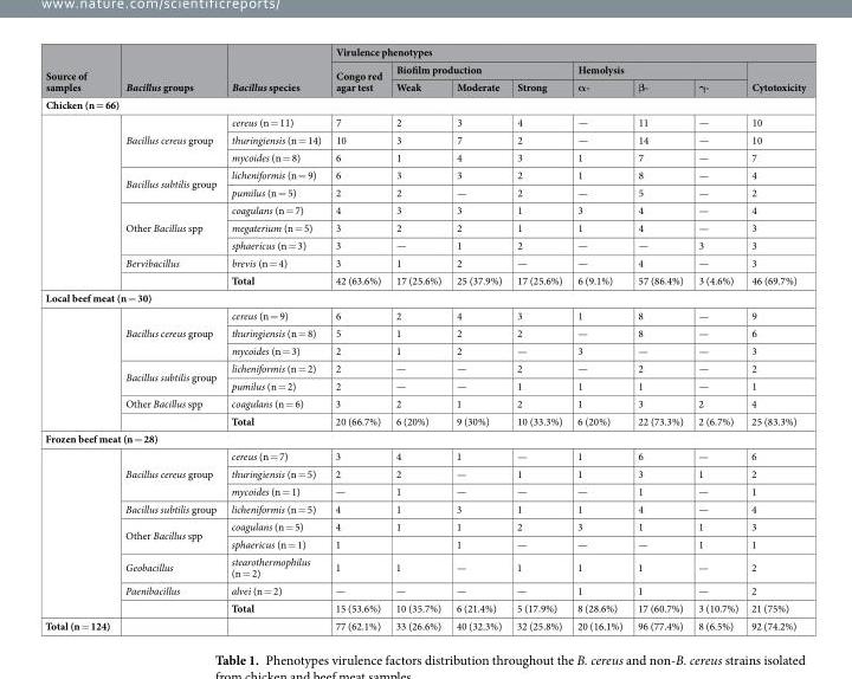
<table><thead><tr><td rowspan="3">Source of samples</td><td rowspan="3">Bacillus groups</td><td rowspan="3">Bacillus species</td><td colspan="8">Virulence phenotypes</td></tr><tr><td rowspan="2">Congo red agar test</td><td colspan="3">Biofilm production</td><td colspan="3">Hemolysis</td><td rowspan="2">Cytotoxicity</td></tr><tr><td>Weak</td><td>Moderate</td><td>Strong</td><td>α-</td><td>β-</td><td>γ-</td></tr></thead><tbody><tr><td colspan="11">Chicken (n = 66)</td></tr><tr><td rowspan="10"></td><td rowspan="3">Bacillus cereus group</td><td>cereus (n = 11)</td><td>7</td><td>2</td><td>3</td><td>4</td><td>—</td><td>11</td><td>—</td><td>10</td></tr><tr><td>thuringiensis (n = 14)</td><td>10</td><td>3</td><td>7</td><td>2</td><td>—</td><td>14</td><td>—</td><td>10</td></tr><tr><td>mycoides (n = 8)</td><td>6</td><td>1</td><td>4</td><td>3</td><td>1</td><td>7</td><td>—</td><td>7</td></tr><tr><td rowspan="2">Bacillus subtilis group</td><td>licheniformis (n = 9)</td><td>6</td><td>3</td><td>3</td><td>2</td><td>1</td><td>8</td><td>—</td><td>4</td></tr><tr><td>pumilus (n = 5)</td><td>2</td><td>2</td><td>—</td><td>2</td><td>—</td><td>5</td><td>—</td><td>2</td></tr><tr><td rowspan="3">Other Bacillus spp</td><td>coagulans (n = 7)</td><td>4</td><td>3</td><td>3</td><td>1</td><td>3</td><td>4</td><td>—</td><td>4</td></tr><tr><td>megaterium (n = 5)</td><td>3</td><td>2</td><td>2</td><td>1</td><td>1</td><td>4</td><td>—</td><td>3</td></tr><tr><td>sphaericus (n = 3)</td><td>3</td><td>—</td><td>1</td><td>2</td><td>—</td><td>—</td><td>3</td><td>3</td></tr><tr><td>Bervibacillus</td><td>brevis (n = 4)</td><td>3</td><td>1</td><td>2</td><td>—</td><td>—</td><td>4</td><td>—</td><td>3</td></tr><tr><td></td><td>Total</td><td>42 (63.6%)</td><td>17 (25.6%)</td><td>25 (37.9%)</td><td>17 (25.6%)</td><td>6 (9.1%)</td><td>57 (86.4%)</td><td>3 (4.6%)</td><td>46 (69.7%)</td></tr><tr><td colspan="11">Local beef meat (n = 30)</td></tr><tr><td rowspan="7"></td><td rowspan="3">Bacillus cereus group</td><td>cereus (n = 9)</td><td>6</td><td>2</td><td>4</td><td>3</td><td>1</td><td>8</td><td>—</td><td>9</td></tr><tr><td>thuringiensis (n = 8)</td><td>5</td><td>1</td><td>2</td><td>2</td><td>—</td><td>8</td><td>—</td><td>6</td></tr><tr><td>mycoides (n = 3)</td><td>2</td><td>1</td><td>2</td><td>—</td><td>3</td><td>—</td><td>—</td><td>3</td></tr><tr><td rowspan="2">Bacillus subtilis group</td><td>licheniformis (n = 2)</td><td>2</td><td>—</td><td>—</td><td>2</td><td>—</td><td>2</td><td>—</td><td>2</td></tr><tr><td>pumilus (n = 2)</td><td>2</td><td>—</td><td>—</td><td>1</td><td>1</td><td>1</td><td>—</td><td>1</td></tr><tr><td>Other Bacillus spp</td><td>coagulans (n = 6)</td><td>3</td><td>2</td><td>1</td><td>2</td><td>1</td><td>3</td><td>2</td><td>4</td></tr><tr><td></td><td>Total</td><td>20 (66.7%)</td><td>6 (20%)</td><td>9 (30%)</td><td>10 (33.3%)</td><td>6 (20%)</td><td>22 (73.3%)</td><td>2 (6.7%)</td><td>25 (83.3%)</td></tr><tr><td colspan="11">Frozen beef meat (n = 28)</td></tr><tr><td rowspan="9"></td><td rowspan="3">Bacillus cereus group</td><td>cereus (n = 7)</td><td>3</td><td>4</td><td>1</td><td>—</td><td>1</td><td>6</td><td>—</td><td>6</td></tr><tr><td>thuringiensis (n = 5)</td><td>2</td><td>2</td><td>—</td><td>1</td><td>1</td><td>3</td><td>1</td><td>2</td></tr><tr><td>mycoides (n = 1)</td><td>—</td><td>1</td><td>—</td><td>—</td><td>—</td><td>1</td><td>—</td><td>1</td></tr><tr><td>Bacillus subtilis group</td><td>licheniformis (n = 5)</td><td>4</td><td>1</td><td>3</td><td>1</td><td>1</td><td>4</td><td>—</td><td>4</td></tr><tr><td rowspan="2">Other Bacillus spp</td><td>coagulans (n = 5)</td><td>4</td><td>1</td><td>1</td><td>2</td><td>3</td><td>1</td><td>1</td><td>3</td></tr><tr><td>sphaericus (n = 1)</td><td>1</td><td></td><td>1</td><td>—</td><td>—</td><td>—</td><td>1</td><td>1</td></tr><tr><td>Geobacillus</td><td>stearothermophilus (n = 2)</td><td>1</td><td>1</td><td>—</td><td>1</td><td>1</td><td>1</td><td>—</td><td>2</td></tr><tr><td>Paenibacillus</td><td>alvei (n = 2)</td><td>—</td><td>—</td><td>—</td><td>—</td><td>1</td><td>1</td><td>—</td><td>2</td></tr><tr><td></td><td>Total</td><td>15 (53.6%)</td><td>10 (35.7%)</td><td>6 (21.4%)</td><td>5 (17.9%)</td><td>8 (28.6%)</td><td>17 (60.7%)</td><td>3 (10.7%)</td><td>21 (75%)</td></tr><tr><td>Total (n = 124)</td><td></td><td></td><td>77 (62.1%)</td><td>33 (26.6%)</td><td>40 (32.3%)</td><td>32 (25.8%)</td><td>20 (16.1%)</td><td>96 (77.4%)</td><td>8 (6.5%)</td><td>92 (74.2%)</td></tr></tbody></table>